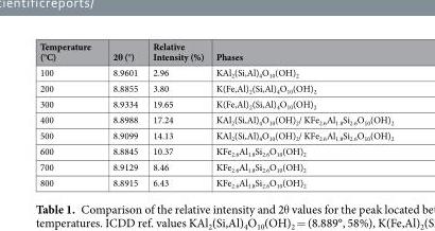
<table><thead><tr><td>Temperature (°C)</td><td>2θ (°)</td><td>Relative Intensity (%)</td><td>Phases</td></tr></thead><tbody><tr><td>100</td><td>8.9601</td><td>2.96</td><td>KAl<sub>2</sub>(Si,Al)<sub>4</sub>O<sub>10</sub>(OH)<sub>2</sub></td></tr><tr><td>200</td><td>8.8855</td><td>3.80</td><td>K(Fe,Al)<sub>2</sub>(Si,Al)<sub>4</sub>O<sub>10</sub>(OH)<sub>2</sub></td></tr><tr><td>300</td><td>8.9334</td><td>19.65</td><td>K(Fe,Al)<sub>2</sub>(Si,Al)<sub>4</sub>O<sub>10</sub>(OH)<sub>2</sub></td></tr><tr><td>400</td><td>8.8988</td><td>17.24</td><td>KAl<sub>2</sub>(Si,Al)<sub>4</sub>O<sub>10</sub>(OH)<sub>2</sub>/ KFe<sub>2.6</sub>Al<sub>1.8</sub>Si<sub>2.6</sub>O<sub>10</sub>(OH)<sub>2</sub></td></tr><tr><td>500</td><td>8.9099</td><td>14.13</td><td>KAl<sub>2</sub>(Si,Al)<sub>4</sub>O<sub>10</sub>(OH)<sub>2</sub>/ KFe<sub>2.6</sub>Al<sub>1.8</sub>Si<sub>2.6</sub>O<sub>10</sub>(OH)<sub>2</sub></td></tr><tr><td>600</td><td>8.8845</td><td>10.37</td><td>KFe<sub>2.6</sub>Al<sub>1.8</sub>Si<sub>2.6</sub>O<sub>10</sub>(OH)<sub>2</sub></td></tr><tr><td>700</td><td>8.9129</td><td>8.46</td><td>KFe<sub>2.6</sub>Al<sub>1.8</sub>Si<sub>2.6</sub>O<sub>10</sub>(OH)<sub>2</sub></td></tr><tr><td>800</td><td>8.8915</td><td>6.43</td><td>KFe<sub>2.6</sub>Al<sub>1.8</sub>Si<sub>2.6</sub>O<sub>10</sub>(OH)<sub>2</sub></td></tr></tbody></table>